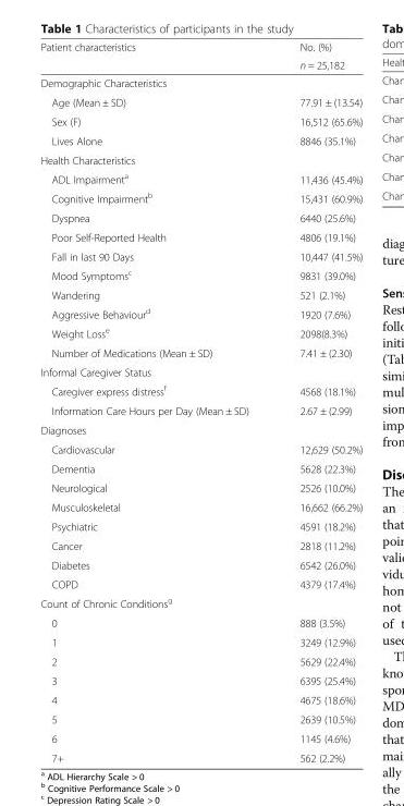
<table><thead><tr><td rowspan="2">Patient characteristics</td><td rowspan="2">No. (%) n = 25,182</td></tr><tr></tr></thead><tbody><tr><td colspan="2">Demographic Characteristics</td></tr><tr><td>Age (Mean ± SD)</td><td>77.91 ± (13.54)</td></tr><tr><td>Sex (F)</td><td>16,512 (65.6%)</td></tr><tr><td>Lives Alone</td><td>8846 (35.1%)</td></tr><tr><td colspan="2">Health Characteristics</td></tr><tr><td>ADL Impairment<sup>a</sup></td><td>11,436 (45.4%)</td></tr><tr><td>Cognitive Impairment<sup>b</sup></td><td>15,431 (60.9%)</td></tr><tr><td>Dyspnea</td><td>6440 (25.6%)</td></tr><tr><td>Poor Self-Reported Health</td><td>4806 (19.1%)</td></tr><tr><td>Fall in last 90 Days</td><td>10,447 (41.5%)</td></tr><tr><td>Mood Symptoms<sup>c</sup></td><td>9831 (39.0%)</td></tr><tr><td>Wandering</td><td>521 (2.1%)</td></tr><tr><td>Aggressive Behaviour<sup>d</sup></td><td>1920 (7.6%)</td></tr><tr><td>Weight Loss<sup>e</sup></td><td>2098(8.3%)</td></tr><tr><td>Number of Medications (Mean ± SD)</td><td>7.41 ± (2.30)</td></tr><tr><td colspan="2">Informal Caregiver Status</td></tr><tr><td>Caregiver express distress<sup>f</sup></td><td>4568 (18.1%)</td></tr><tr><td>Information Care Hours per Day (Mean ± SD)</td><td>2.67 ± (2.99)</td></tr><tr><td colspan="2">Diagnoses</td></tr><tr><td>Cardiovascular</td><td>12,629 (50.2%)</td></tr><tr><td>Dementia</td><td>5628 (22.3%)</td></tr><tr><td>Neurological</td><td>2526 (10.0%)</td></tr><tr><td>Musculoskeletal</td><td>16,662 (66.2%)</td></tr><tr><td>Psychiatric</td><td>4591 (18.2%)</td></tr><tr><td>Cancer</td><td>2818 (11.2%)</td></tr><tr><td>Diabetes</td><td>6542 (26.0%)</td></tr><tr><td>COPD</td><td>4379 (17.4%)</td></tr><tr><td colspan="2">Count of Chronic Conditions<sup>g</sup></td></tr><tr><td>0</td><td>888 (3.5%)</td></tr><tr><td>1</td><td>3249 (12.9%)</td></tr><tr><td>2</td><td>5629 (22.4%)</td></tr><tr><td>3</td><td>6395 (25.4%)</td></tr><tr><td>4</td><td>4675 (18.6%)</td></tr><tr><td>5</td><td>2639 (10.5%)</td></tr><tr><td>6</td><td>1145 (4.6%)</td></tr><tr><td>7+</td><td>562 (2.2%)</td></tr></tbody></table>